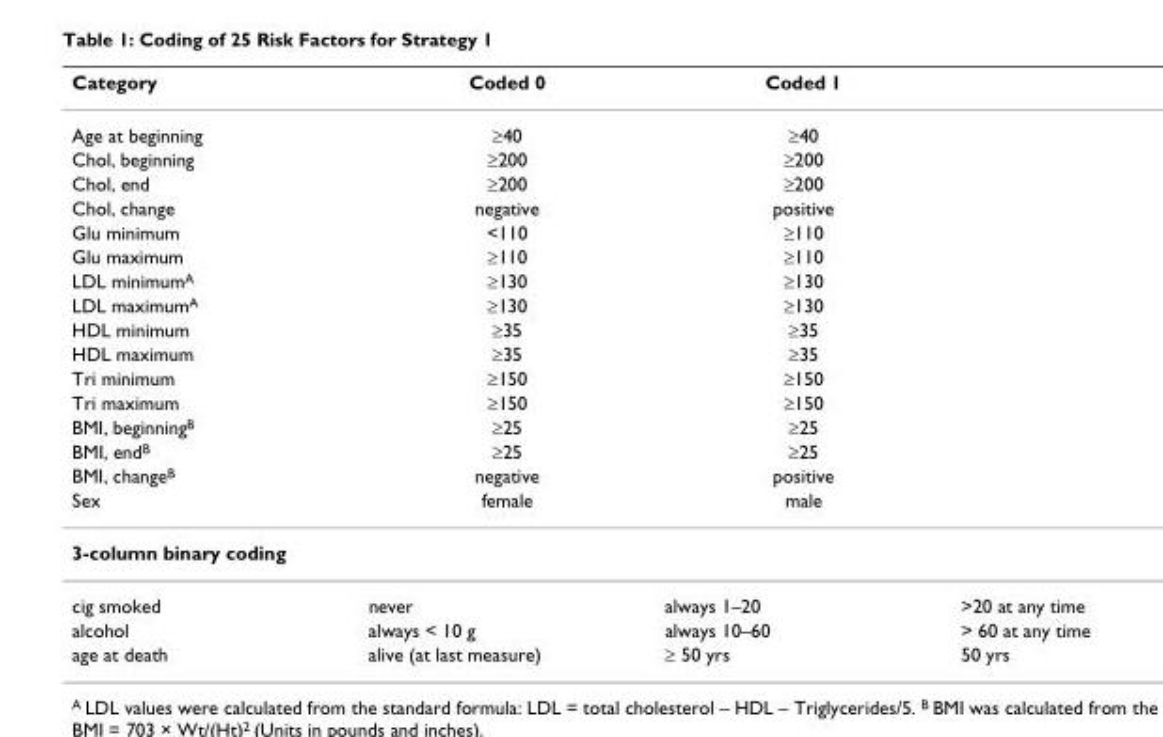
<table><thead><tr><td>Category</td><td>Coded 0</td><td>Coded 1</td><td></td></tr></thead><tbody><tr><td>Age at beginning</td><td>≥40</td><td>≥40</td><td></td></tr><tr><td>Chol, beginning</td><td>≥200</td><td>≥200</td><td></td></tr><tr><td>Chol, end</td><td>≥200</td><td>≥200</td><td></td></tr><tr><td>Chol, change</td><td>negative</td><td>positive</td><td></td></tr><tr><td>Glu minimum</td><td>&lt;110</td><td>≥110</td><td></td></tr><tr><td>Glu maximum</td><td>≥110</td><td>≥110</td><td></td></tr><tr><td>LDL minimumA</td><td>≥130</td><td>≥130</td><td></td></tr><tr><td>LDL maximumA</td><td>≥130</td><td>≥130</td><td></td></tr><tr><td>HDL minimum</td><td>≥35</td><td>≥35</td><td></td></tr><tr><td>HDL maximum</td><td>≥35</td><td>≥35</td><td></td></tr><tr><td>Tri minimum</td><td>≥150</td><td>≥150</td><td></td></tr><tr><td>Tri maximum</td><td>≥150</td><td>≥150</td><td></td></tr><tr><td>BMI, beginningB</td><td>≥25</td><td>≥25</td><td></td></tr><tr><td>BMI, endB</td><td>≥25</td><td>≥25</td><td></td></tr><tr><td>BMI, changeB</td><td>negative</td><td>positive</td><td></td></tr><tr><td>Sex</td><td>female</td><td>male</td><td></td></tr><tr><td colspan="4">3-column binary coding</td></tr><tr><td>cig smoked</td><td>never</td><td>always 1–20</td><td>&gt;20 at any time</td></tr><tr><td>alcohol</td><td>always &lt; 10 g</td><td>always 10–60</td><td>&gt; 60 at any time</td></tr><tr><td>age at death</td><td>alive (at last measure)</td><td>≥ 50 yrs</td><td>50 yrs</td></tr></tbody></table>